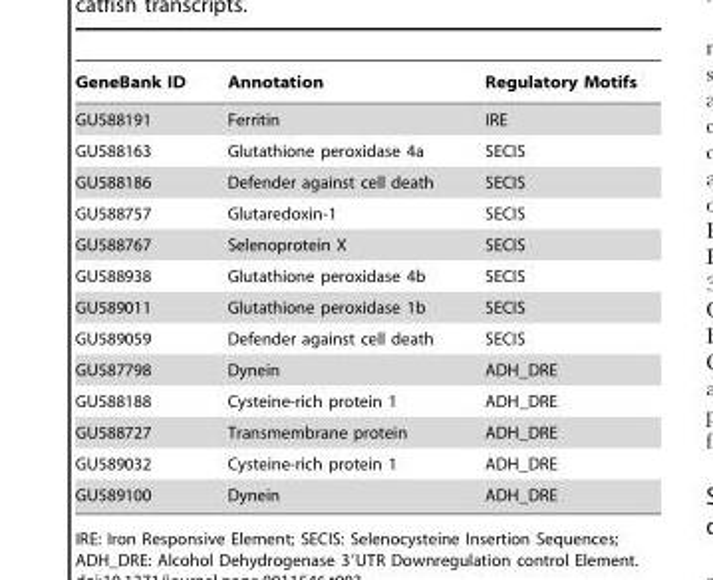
<table><thead><tr><td>GeneBank ID</td><td>Annotation</td><td>Regulatory Motifs</td></tr></thead><tbody><tr><td>GU588191</td><td>Ferritin</td><td>IRE</td></tr><tr><td>GU588163</td><td>Glutathione peroxidase 4a</td><td>SECIS</td></tr><tr><td>GU588186</td><td>Defender against cell death</td><td>SECIS</td></tr><tr><td>GU588757</td><td>Glutaredoxin-1</td><td>SECIS</td></tr><tr><td>GU588767</td><td>Selenoprotein X</td><td>SECIS</td></tr><tr><td>GU588938</td><td>Glutathione peroxidase 4b</td><td>SECIS</td></tr><tr><td>GU589011</td><td>Glutathione peroxidase 1b</td><td>SECIS</td></tr><tr><td>GU589059</td><td>Defender against cell death</td><td>SECIS</td></tr><tr><td>GU587798</td><td>Dynein</td><td>ADH_DRE</td></tr><tr><td>GU588188</td><td>Cysteine-rich protein 1</td><td>ADH_DRE</td></tr><tr><td>GU588727</td><td>Transmembrane protein</td><td>ADH_DRE</td></tr><tr><td>GU589032</td><td>Cysteine-rich protein 1</td><td>ADH_DRE</td></tr><tr><td>GU589100</td><td>Dynein</td><td>ADH_DRE</td></tr></tbody></table>